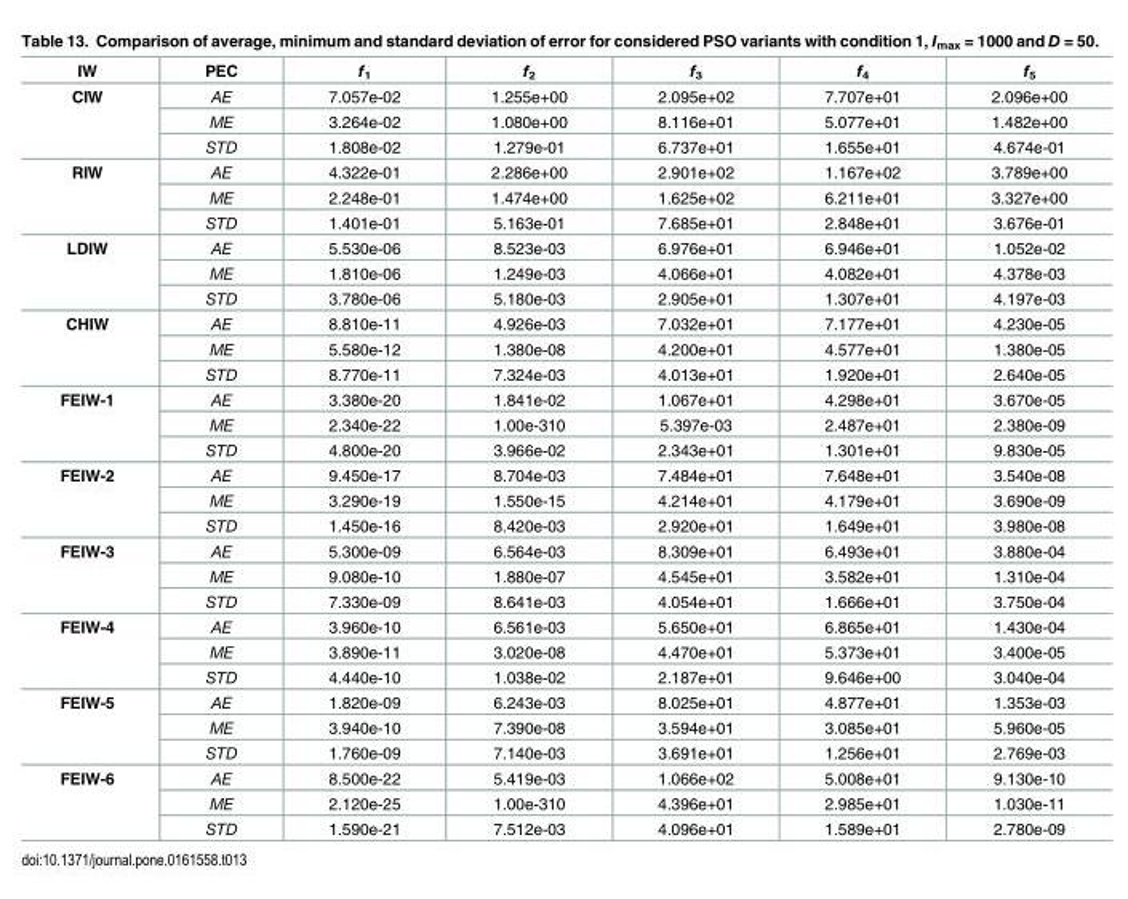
<table><thead><tr><td>IW</td><td>PEC</td><td>f<sub>1</sub></td><td>f<sub>2</sub></td><td>f<sub>3</sub></td><td>f<sub>4</sub></td><td>f<sub>5</sub></td></tr></thead><tbody><tr><td rowspan="3">CIW</td><td>AE</td><td>7.057e-02</td><td>1.255e+00</td><td>2.095e+02</td><td>7.707e+01</td><td>2.096e+00</td></tr><tr><td>ME</td><td>3.264e-02</td><td>1.080e+00</td><td>8.116e+01</td><td>5.077e+01</td><td>1.482e+00</td></tr><tr><td>STD</td><td>1.808e-02</td><td>1.279e-01</td><td>6.737e+01</td><td>1.655e+01</td><td>4.674e-01</td></tr><tr><td rowspan="3">RIW</td><td>AE</td><td>4.322e-01</td><td>2.286e+00</td><td>2.901e+02</td><td>1.167e+02</td><td>3.789e+00</td></tr><tr><td>ME</td><td>2.248e-01</td><td>1.474e+00</td><td>1.625e+02</td><td>6.211e+01</td><td>3.327e+00</td></tr><tr><td>STD</td><td>1.401e-01</td><td>5.163e-01</td><td>7.685e+01</td><td>2.848e+01</td><td>3.676e-01</td></tr><tr><td rowspan="3">LDIW</td><td>AE</td><td>5.530e-06</td><td>8.523e-03</td><td>6.976e+01</td><td>6.946e+01</td><td>1.052e-02</td></tr><tr><td>ME</td><td>1.810e-06</td><td>1.249e-03</td><td>4.066e+01</td><td>4.082e+01</td><td>4.378e-03</td></tr><tr><td>STD</td><td>3.780e-06</td><td>5.180e-03</td><td>2.905e+01</td><td>1.307e+01</td><td>4.197e-03</td></tr><tr><td rowspan="3">CHIW</td><td>AE</td><td>8.810e-11</td><td>4.926e-03</td><td>7.032e+01</td><td>7.177e+01</td><td>4.230e-05</td></tr><tr><td>ME</td><td>5.580e-12</td><td>1.380e-08</td><td>4.200e+01</td><td>4.577e+01</td><td>1.380e-05</td></tr><tr><td>STD</td><td>8.770e-11</td><td>7.324e-03</td><td>4.013e+01</td><td>1.920e+01</td><td>2.640e-05</td></tr><tr><td rowspan="3">FEIW-1</td><td>AE</td><td>3.380e-20</td><td>1.841e-02</td><td>1.067e+01</td><td>4.298e+01</td><td>3.670e-05</td></tr><tr><td>ME</td><td>2.340e-22</td><td>1.00e-310</td><td>5.397e-03</td><td>2.487e+01</td><td>2.380e-09</td></tr><tr><td>STD</td><td>4.800e-20</td><td>3.966e-02</td><td>2.343e+01</td><td>1.301e+01</td><td>9.830e-05</td></tr><tr><td rowspan="3">FEIW-2</td><td>AE</td><td>9.450e-17</td><td>8.704e-03</td><td>7.484e+01</td><td>7.648e+01</td><td>3.540e-08</td></tr><tr><td>ME</td><td>3.290e-19</td><td>1.550e-15</td><td>4.214e+01</td><td>4.179e+01</td><td>3.690e-09</td></tr><tr><td>STD</td><td>1.450e-16</td><td>8.420e-03</td><td>2.920e+01</td><td>1.649e+01</td><td>3.980e-08</td></tr><tr><td rowspan="3">FEIW-3</td><td>AE</td><td>5.300e-09</td><td>6.564e-03</td><td>8.309e+01</td><td>6.493e+01</td><td>3.880e-04</td></tr><tr><td>ME</td><td>9.080e-10</td><td>1.880e-07</td><td>4.545e+01</td><td>3.582e+01</td><td>1.310e-04</td></tr><tr><td>STD</td><td>7.330e-09</td><td>8.641e-03</td><td>4.054e+01</td><td>1.666e+01</td><td>3.750e-04</td></tr><tr><td rowspan="3">FEIW-4</td><td>AE</td><td>3.960e-10</td><td>6.561e-03</td><td>5.650e+01</td><td>6.865e+01</td><td>1.430e-04</td></tr><tr><td>ME</td><td>3.890e-11</td><td>3.020e-08</td><td>4.470e+01</td><td>5.373e+01</td><td>3.400e-05</td></tr><tr><td>STD</td><td>4.440e-10</td><td>1.038e-02</td><td>2.187e+01</td><td>9.646e+00</td><td>3.040e-04</td></tr><tr><td rowspan="3">FEIW-5</td><td>AE</td><td>1.820e-09</td><td>6.243e-03</td><td>8.025e+01</td><td>4.877e+01</td><td>1.353e-03</td></tr><tr><td>ME</td><td>3.940e-10</td><td>7.390e-08</td><td>3.594e+01</td><td>3.085e+01</td><td>5.960e-05</td></tr><tr><td>STD</td><td>1.760e-09</td><td>7.140e-03</td><td>3.691e+01</td><td>1.256e+01</td><td>2.769e-03</td></tr><tr><td rowspan="3">FEIW-6</td><td>AE</td><td>8.500e-22</td><td>5.419e-03</td><td>1.066e+02</td><td>5.008e+01</td><td>9.130e-10</td></tr><tr><td>ME</td><td>2.120e-25</td><td>1.00e-310</td><td>4.396e+01</td><td>2.985e+01</td><td>1.030e-11</td></tr><tr><td>STD</td><td>1.590e-21</td><td>7.512e-03</td><td>4.096e+01</td><td>1.589e+01</td><td>2.780e-09</td></tr></tbody></table>